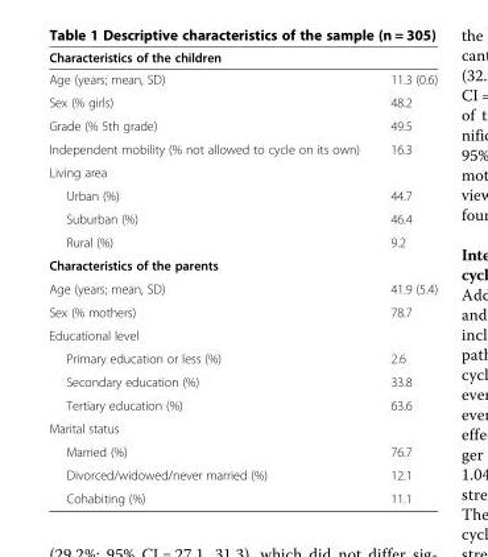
<table><thead><tr><td colspan="2">Characteristics of the children</td></tr><tr><td>Age (years; mean, SD)</td><td>11.3 (0.6)</td></tr></thead><tbody><tr><td>Sex (% girls)</td><td>48.2</td></tr><tr><td>Grade (% 5th grade)</td><td>49.5</td></tr><tr><td>Independent mobility (% not allowed to cycle on its own)</td><td>16.3</td></tr><tr><td colspan="2">Living area</td></tr><tr><td>Urban (%)</td><td>44.7</td></tr><tr><td>Suburban (%)</td><td>46.4</td></tr><tr><td>Rural (%)</td><td>9.2</td></tr><tr><td colspan="2">Characteristics of the parents</td></tr><tr><td>Age (years; mean, SD)</td><td>41.9 (5.4)</td></tr><tr><td>Sex (% mothers)</td><td>78.7</td></tr><tr><td colspan="2">Educational level</td></tr><tr><td>Primary education or less (%)</td><td>2.6</td></tr><tr><td>Secondary education (%)</td><td>33.8</td></tr><tr><td>Tertiary education (%)</td><td>63.6</td></tr><tr><td colspan="2">Marital status</td></tr><tr><td>Married (%)</td><td>76.7</td></tr><tr><td>Divorced/widowed/never married (%)</td><td>12.1</td></tr><tr><td>Cohabiting (%)</td><td>11.1</td></tr></tbody></table>